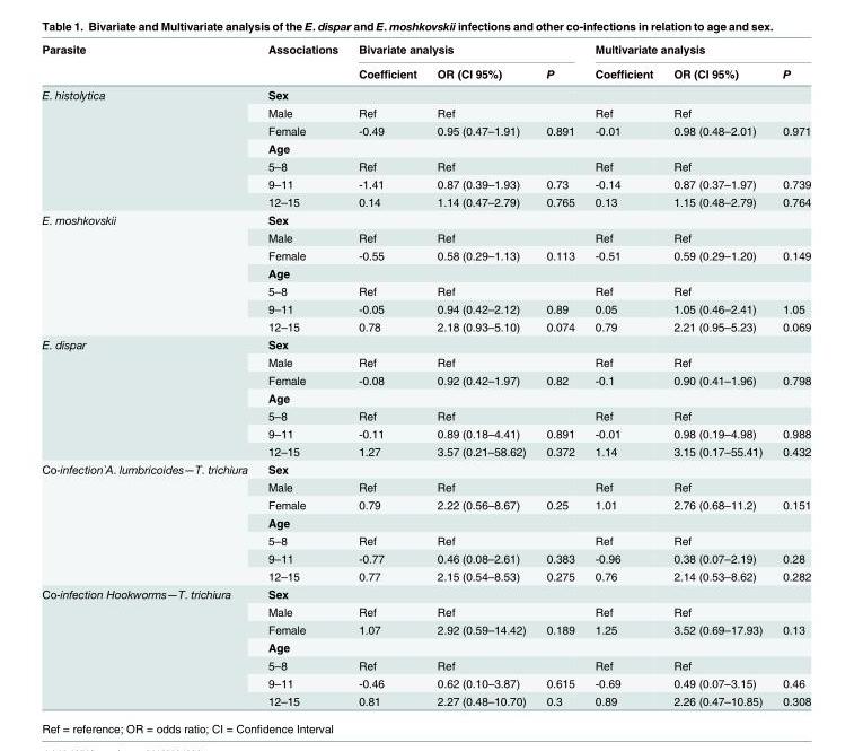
<table><thead><tr><td rowspan="2">Parasite</td><td rowspan="2">Associations</td><td colspan="3">Bivariate analysis</td><td colspan="3">Multivariate analysis</td></tr><tr><td>Coefficient</td><td>OR (CI 95%)</td><td>P</td><td>Coefficient</td><td>OR (CI 95%)</td><td>P</td></tr></thead><tbody><tr><td rowspan="7">E. histolytica</td><td>Sex</td><td></td><td></td><td></td><td></td><td></td><td></td></tr><tr><td>Male</td><td>Ref</td><td>Ref</td><td></td><td>Ref</td><td>Ref</td><td></td></tr><tr><td>Female</td><td>-0.49</td><td>0.95 (0.47–1.91)</td><td>0.891</td><td>-0.01</td><td>0.98 (0.48–2.01)</td><td>0.971</td></tr><tr><td>Age</td><td></td><td></td><td></td><td></td><td></td><td></td></tr><tr><td>5–8</td><td>Ref</td><td>Ref</td><td></td><td>Ref</td><td>Ref</td><td></td></tr><tr><td>9–11</td><td>-1.41</td><td>0.87 (0.39–1.93)</td><td>0.73</td><td>-0.14</td><td>0.87 (0.37–1.97)</td><td>0.739</td></tr><tr><td>12–15</td><td>0.14</td><td>1.14 (0.47–2.79)</td><td>0.765</td><td>0.13</td><td>1.15 (0.48–2.79)</td><td>0.764</td></tr><tr><td rowspan="7">E. moshkovskii</td><td>Sex</td><td></td><td></td><td></td><td></td><td></td><td></td></tr><tr><td>Male</td><td>Ref</td><td>Ref</td><td></td><td>Ref</td><td>Ref</td><td></td></tr><tr><td>Female</td><td>-0.55</td><td>0.58 (0.29–1.13)</td><td>0.113</td><td>-0.51</td><td>0.59 (0.29–1.20)</td><td>0.149</td></tr><tr><td>Age</td><td></td><td></td><td></td><td></td><td></td><td></td></tr><tr><td>5–8</td><td>Ref</td><td>Ref</td><td></td><td>Ref</td><td>Ref</td><td></td></tr><tr><td>9–11</td><td>-0.05</td><td>0.94 (0.42–2.12)</td><td>0.89</td><td>0.05</td><td>1.05 (0.46–2.41)</td><td>1.05</td></tr><tr><td>12–15</td><td>0.78</td><td>2.18 (0.93–5.10)</td><td>0.074</td><td>0.79</td><td>2.21 (0.95–5.23)</td><td>0.069</td></tr><tr><td rowspan="7">E. dispar</td><td>Sex</td><td></td><td></td><td></td><td></td><td></td><td></td></tr><tr><td>Male</td><td>Ref</td><td>Ref</td><td></td><td>Ref</td><td>Ref</td><td></td></tr><tr><td>Female</td><td>-0.08</td><td>0.92 (0.42–1.97)</td><td>0.82</td><td>-0.1</td><td>0.90 (0.41–1.96)</td><td>0.798</td></tr><tr><td>Age</td><td></td><td></td><td></td><td></td><td></td><td></td></tr><tr><td>5–8</td><td>Ref</td><td>Ref</td><td></td><td>Ref</td><td>Ref</td><td></td></tr><tr><td>9–11</td><td>-0.11</td><td>0.89 (0.18–4.41)</td><td>0.891</td><td>-0.01</td><td>0.98 (0.19–4.98)</td><td>0.988</td></tr><tr><td>12–15</td><td>1.27</td><td>3.57 (0.21–58.62)</td><td>0.372</td><td>1.14</td><td>3.15 (0.17–55.41)</td><td>0.432</td></tr><tr><td rowspan="7">Co-infection`A. lumbricoides—T. trichiura</td><td>Sex</td><td></td><td></td><td></td><td></td><td></td><td></td></tr><tr><td>Male</td><td>Ref</td><td>Ref</td><td></td><td>Ref</td><td>Ref</td><td></td></tr><tr><td>Female</td><td>0.79</td><td>2.22 (0.56–8.67)</td><td>0.25</td><td>1.01</td><td>2.76 (0.68–11.2)</td><td>0.151</td></tr><tr><td>Age</td><td></td><td></td><td></td><td></td><td></td><td></td></tr><tr><td>5–8</td><td>Ref</td><td>Ref</td><td></td><td>Ref</td><td>Ref</td><td></td></tr><tr><td>9–11</td><td>-0.77</td><td>0.46 (0.08–2.61)</td><td>0.383</td><td>-0.96</td><td>0.38 (0.07–2.19)</td><td>0.28</td></tr><tr><td>12–15</td><td>0.77</td><td>2.15 (0.54–8.53)</td><td>0.275</td><td>0.76</td><td>2.14 (0.53–8.62)</td><td>0.282</td></tr><tr><td rowspan="7">Co-infection Hookworms—T. trichiura</td><td>Sex</td><td></td><td></td><td></td><td></td><td></td><td></td></tr><tr><td>Male</td><td>Ref</td><td>Ref</td><td></td><td>Ref</td><td>Ref</td><td></td></tr><tr><td>Female</td><td>1.07</td><td>2.92 (0.59–14.42)</td><td>0.189</td><td>1.25</td><td>3.52 (0.69–17.93)</td><td>0.13</td></tr><tr><td>Age</td><td></td><td></td><td></td><td></td><td></td><td></td></tr><tr><td>5–8</td><td>Ref</td><td>Ref</td><td></td><td>Ref</td><td>Ref</td><td></td></tr><tr><td>9–11</td><td>-0.46</td><td>0.62 (0.10–3.87)</td><td>0.615</td><td>-0.69</td><td>0.49 (0.07–3.15)</td><td>0.46</td></tr><tr><td>12–15</td><td>0.81</td><td>2.27 (0.48–10.70)</td><td>0.3</td><td>0.89</td><td>2.26 (0.47–10.85)</td><td>0.308</td></tr></tbody></table>